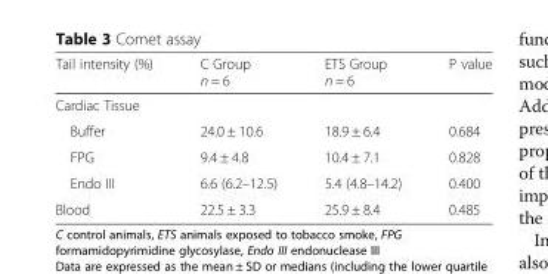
<table><thead><tr><td>Tail intensity (%)</td><td>C Group n = 6</td><td>ETS Group n = 6</td><td>P value</td></tr></thead><tbody><tr><td colspan="4">Cardiac Tissue</td></tr><tr><td>Buffer</td><td>24.0 ± 10.6</td><td>18.9 ± 6.4</td><td>0.684</td></tr><tr><td>FPG</td><td>9.4 ± 4.8</td><td>10.4 ± 7.1</td><td>0.828</td></tr><tr><td>Endo III</td><td>6.6 (6.2–12.5)</td><td>5.4 (4.8–14.2)</td><td>0.400</td></tr><tr><td>Blood</td><td>22.5 ± 3.3</td><td>25.9 ± 8.4</td><td>0.485</td></tr></tbody></table>